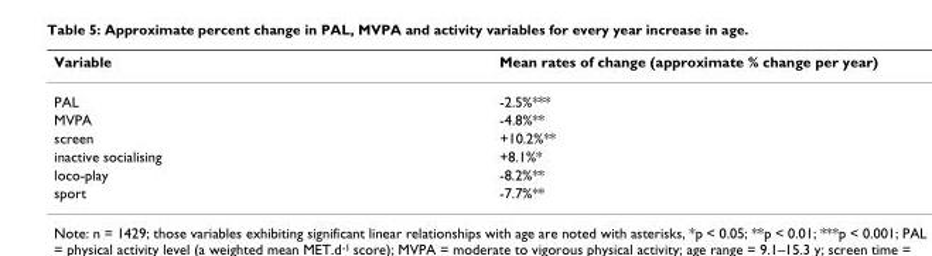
<table><thead><tr><td>Variable</td><td>Mean rates of change (approximate % change per year)</td></tr></thead><tbody><tr><td>PAL</td><td>-2.5%***</td></tr><tr><td>MVPA</td><td>-4.8%**</td></tr><tr><td>screen</td><td>+10.2%**</td></tr><tr><td>inactive socialising</td><td>+8.1%*</td></tr><tr><td>loco-play</td><td>-8.2%**</td></tr><tr><td>sport</td><td>-7.7%**</td></tr></tbody></table>